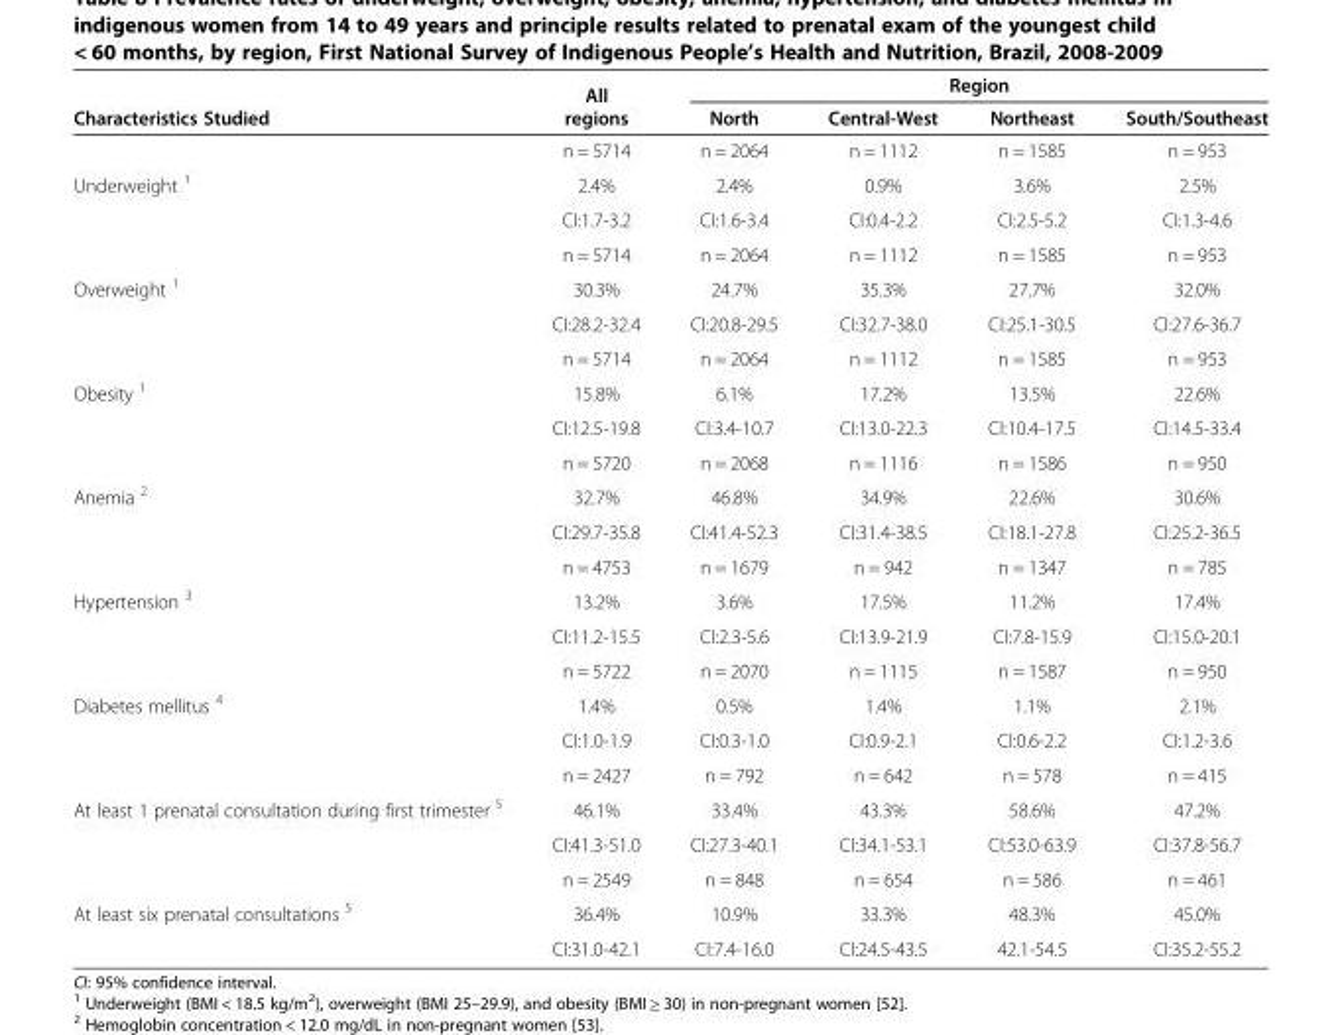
<table><thead><tr><td rowspan="2">Characteristics Studied</td><td rowspan="2">All regions</td><td colspan="4">Region</td></tr><tr><td>North</td><td>Central-West</td><td>Northeast</td><td>South/Southeast</td></tr></thead><tbody><tr><td rowspan="3">Underweight <sup>1</sup></td><td>n = 5714</td><td>n = 2064</td><td>n = 1112</td><td>n = 1585</td><td>n = 953</td></tr><tr><td>2.4%</td><td>2.4%</td><td>0.9%</td><td>3.6%</td><td>2.5%</td></tr><tr><td>CI:1.7-3.2</td><td>CI:1.6-3.4</td><td>CI:0.4-2.2</td><td>CI:2.5-5.2</td><td>CI:1.3-4.6</td></tr><tr><td rowspan="3">Overweight <sup>1</sup></td><td>n = 5714</td><td>n = 2064</td><td>n = 1112</td><td>n = 1585</td><td>n = 953</td></tr><tr><td>30.3%</td><td>24.7%</td><td>35.3%</td><td>27.7%</td><td>32.0%</td></tr><tr><td>CI:28.2-32.4</td><td>CI:20.8-29.5</td><td>CI:32.7-38.0</td><td>CI:25.1-30.5</td><td>CI:27.6-36.7</td></tr><tr><td rowspan="3">Obesity <sup>1</sup></td><td>n = 5714</td><td>n = 2064</td><td>n = 1112</td><td>n = 1585</td><td>n = 953</td></tr><tr><td>15.8%</td><td>6.1%</td><td>17.2%</td><td>13.5%</td><td>22.6%</td></tr><tr><td>CI:12.5-19.8</td><td>CI:3.4-10.7</td><td>CI:13.0-22.3</td><td>CI:10.4-17.5</td><td>CI:14.5-33.4</td></tr><tr><td rowspan="3">Anemia <sup>2</sup></td><td>n = 5720</td><td>n = 2068</td><td>n = 1116</td><td>n = 1586</td><td>n = 950</td></tr><tr><td>32.7%</td><td>46.8%</td><td>34.9%</td><td>22.6%</td><td>30.6%</td></tr><tr><td>CI:29.7-35.8</td><td>CI:41.4-52.3</td><td>CI:31.4-38.5</td><td>CI:18.1-27.8</td><td>CI:25.2-36.5</td></tr><tr><td rowspan="3">Hypertension <sup>3</sup></td><td>n = 4753</td><td>n = 1679</td><td>n = 942</td><td>n = 1347</td><td>n = 785</td></tr><tr><td>13.2%</td><td>3.6%</td><td>17.5%</td><td>11.2%</td><td>17.4%</td></tr><tr><td>CI:11.2-15.5</td><td>CI:2.3-5.6</td><td>CI:13.9-21.9</td><td>CI:7.8-15.9</td><td>CI:15.0-20.1</td></tr><tr><td rowspan="3">Diabetes mellitus <sup>4</sup></td><td>n = 5722</td><td>n = 2070</td><td>n = 1115</td><td>n = 1587</td><td>n = 950</td></tr><tr><td>1.4%</td><td>0.5%</td><td>1.4%</td><td>1.1%</td><td>2.1%</td></tr><tr><td>CI:1.0-1.9</td><td>CI:0.3-1.0</td><td>CI:0.9-2.1</td><td>CI:0.6-2.2</td><td>CI:1.2-3.6</td></tr><tr><td rowspan="3">At least 1 prenatal consultation during first trimester <sup>5</sup></td><td>n = 2427</td><td>n = 792</td><td>n = 642</td><td>n = 578</td><td>n = 415</td></tr><tr><td>46.1%</td><td>33.4%</td><td>43.3%</td><td>58.6%</td><td>47.2%</td></tr><tr><td>CI:41.3-51.0</td><td>CI:27.3-40.1</td><td>CI:34.1-53.1</td><td>CI:53.0-63.9</td><td>CI:37.8-56.7</td></tr><tr><td rowspan="3">At least six prenatal consultations <sup>5</sup></td><td>n = 2549</td><td>n = 848</td><td>n = 654</td><td>n = 586</td><td>n = 461</td></tr><tr><td>36.4%</td><td>10.9%</td><td>33.3%</td><td>48.3%</td><td>45.0%</td></tr><tr><td>CI:31.0-42.1</td><td>CI:7.4-16.0</td><td>CI:24.5-43.5</td><td>42.1-54.5</td><td>CI:35.2-55.2</td></tr></tbody></table>